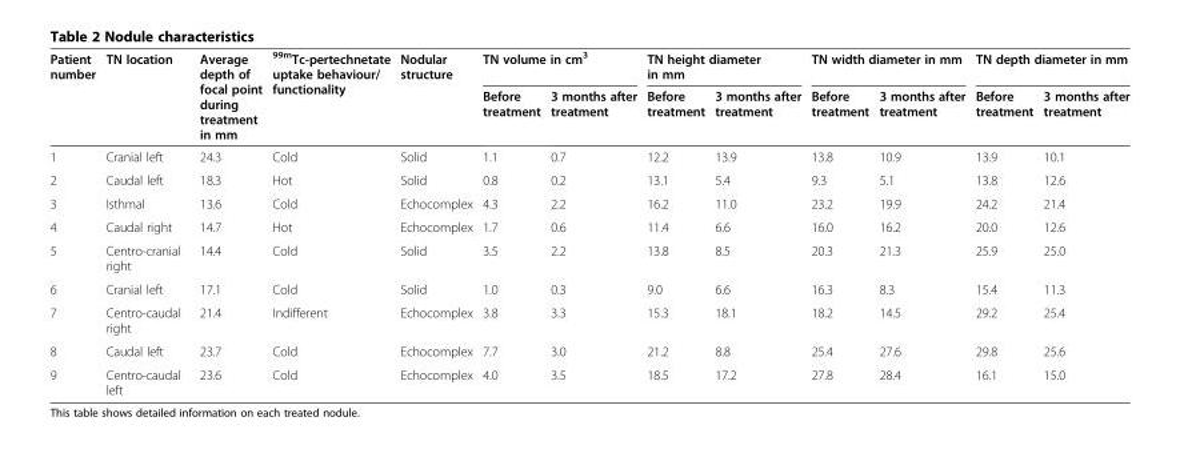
<table><thead><tr><td rowspan="2">Patient number</td><td rowspan="2">TN location</td><td rowspan="2">Average depth of focal point during treatment in mm</td><td rowspan="2"><sup>99m</sup>Tc-pertechnetate uptake behaviour/ functionality</td><td rowspan="2">Nodular structure</td><td colspan="2">TN volume in cm<sup>3</sup></td><td colspan="2">TN height diameter in mm</td><td colspan="2">TN width diameter in mm</td><td colspan="2">TN depth diameter in mm</td></tr><tr><td>Before treatment</td><td>3 months after treatment</td><td>Before treatment</td><td>3 months after treatment</td><td>Before treatment</td><td>3 months after treatment</td><td>Before treatment</td><td>3 months after treatment</td></tr></thead><tbody><tr><td>1</td><td>Cranial left</td><td>24.3</td><td>Cold</td><td>Solid</td><td>1.1</td><td>0.7</td><td>12.2</td><td>13.9</td><td>13.8</td><td>10.9</td><td>13.9</td><td>10.1</td></tr><tr><td>2</td><td>Caudal left</td><td>18.3</td><td>Hot</td><td>Solid</td><td>0.8</td><td>0.2</td><td>13.1</td><td>5.4</td><td>9.3</td><td>5.1</td><td>13.8</td><td>12.6</td></tr><tr><td>3</td><td>Isthmal</td><td>13.6</td><td>Cold</td><td>Echocomplex</td><td>4.3</td><td>2.2</td><td>16.2</td><td>11.0</td><td>23.2</td><td>19.9</td><td>24.2</td><td>21.4</td></tr><tr><td>4</td><td>Caudal right</td><td>14.7</td><td>Hot</td><td>Echocomplex</td><td>1.7</td><td>0.6</td><td>11.4</td><td>6.6</td><td>16.0</td><td>16.2</td><td>20.0</td><td>12.6</td></tr><tr><td>5</td><td>Centro-cranial right</td><td>14.4</td><td>Cold</td><td>Solid</td><td>3.5</td><td>2.2</td><td>13.8</td><td>8.5</td><td>20.3</td><td>21.3</td><td>25.9</td><td>25.0</td></tr><tr><td>6</td><td>Cranial left</td><td>17.1</td><td>Cold</td><td>Solid</td><td>1.0</td><td>0.3</td><td>9.0</td><td>6.6</td><td>16.3</td><td>8.3</td><td>15.4</td><td>11.3</td></tr><tr><td>7</td><td>Centro-caudal right</td><td>21.4</td><td>Indifferent</td><td>Echocomplex</td><td>3.8</td><td>3.3</td><td>15.3</td><td>18.1</td><td>18.2</td><td>14.5</td><td>29.2</td><td>25.4</td></tr><tr><td>8</td><td>Caudal left</td><td>23.7</td><td>Cold</td><td>Echocomplex</td><td>7.7</td><td>3.0</td><td>21.2</td><td>8.8</td><td>25.4</td><td>27.6</td><td>29.8</td><td>25.6</td></tr><tr><td>9</td><td>Centro-caudal left</td><td>23.6</td><td>Cold</td><td>Echocomplex</td><td>4.0</td><td>3.5</td><td>18.5</td><td>17.2</td><td>27.8</td><td>28.4</td><td>16.1</td><td>15.0</td></tr></tbody></table>